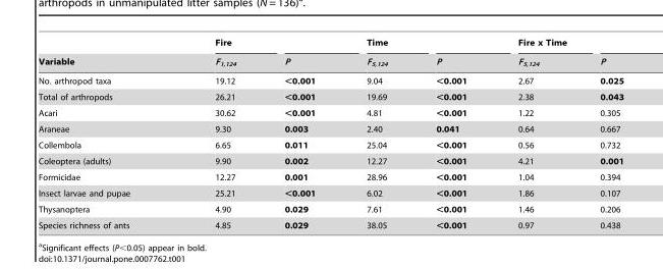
<table><thead><tr><td rowspan="2">Variable</td><td rowspan="2">Fire F<sub>1,124</sub></td><td rowspan="2">P</td><td rowspan="2">Time F<sub>5,124</sub></td><td rowspan="2">P</td><td rowspan="2">Fire x Time F<sub>5,124</sub></td><td rowspan="2">P</td></tr><tr></tr></thead><tbody><tr><td>No. arthropod taxa</td><td>19.12</td><td>&lt;0.001</td><td>9.04</td><td>&lt;0.001</td><td>2.67</td><td>0.025</td></tr><tr><td>Total of arthropods</td><td>26.21</td><td>&lt;0.001</td><td>19.69</td><td>&lt;0.001</td><td>2.38</td><td>0.043</td></tr><tr><td>Acari</td><td>30.62</td><td>&lt;0.001</td><td>4.81</td><td>&lt;0.001</td><td>1.22</td><td>0.305</td></tr><tr><td>Araneae</td><td>9.30</td><td>0.003</td><td>2.40</td><td>0.041</td><td>0.64</td><td>0.667</td></tr><tr><td>Collembola</td><td>6.65</td><td>0.011</td><td>25.04</td><td>&lt;0.001</td><td>0.56</td><td>0.732</td></tr><tr><td>Coleoptera (adults)</td><td>9.90</td><td>0.002</td><td>12.27</td><td>&lt;0.001</td><td>4.21</td><td>0.001</td></tr><tr><td>Formicidae</td><td>12.27</td><td>0.001</td><td>28.96</td><td>&lt;0.001</td><td>1.04</td><td>0.394</td></tr><tr><td>Insect larvae and pupae</td><td>25.21</td><td>&lt;0.001</td><td>6.02</td><td>&lt;0.001</td><td>1.86</td><td>0.107</td></tr><tr><td>Thysanoptera</td><td>4.90</td><td>0.029</td><td>7.61</td><td>&lt;0.001</td><td>1.46</td><td>0.206</td></tr><tr><td>Species richness of ants</td><td>4.85</td><td>0.029</td><td>38.05</td><td>&lt;0.001</td><td>0.97</td><td>0.438</td></tr></tbody></table>